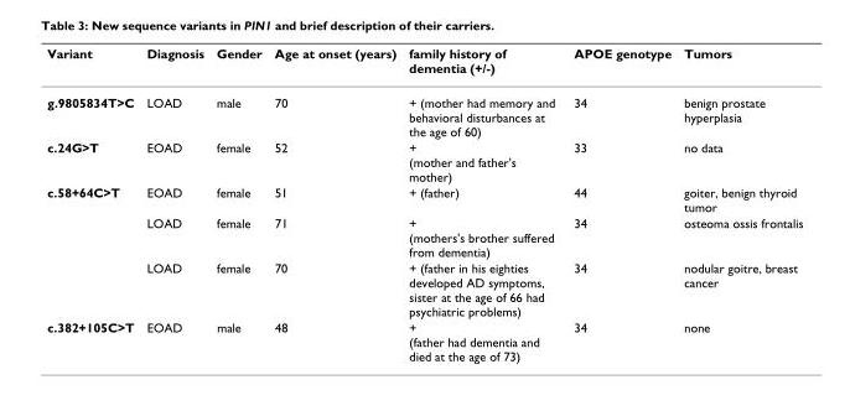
<table><thead><tr><td>Variant</td><td>Diagnosis</td><td>Gender</td><td>Age at onset (years)</td><td>family history of dementia (+/-)</td><td>APOE genotype</td><td>Tumors</td></tr></thead><tbody><tr><td>g.9805834T&gt;C</td><td>LOAD</td><td>male</td><td>70</td><td>+ (mother had memory and behavioral disturbances at the age of 60)</td><td>34</td><td>benign prostate hyperplasia</td></tr><tr><td>c.24G&gt;T</td><td>EOAD</td><td>female</td><td>52</td><td>+ (mother and father&#x27;s mother)</td><td>33</td><td>no data</td></tr><tr><td rowspan="3">c.58+64C&gt;T</td><td>EOAD</td><td>female</td><td>51</td><td>+ (father)</td><td>44</td><td>goiter, benign thyroid tumor</td></tr><tr><td>LOAD</td><td>female</td><td>71</td><td>+ (mothers&#x27;s brother suffered from dementia)</td><td>34</td><td>osteoma ossis frontalis</td></tr><tr><td>LOAD</td><td>female</td><td>70</td><td>+ (father in his eighties developed AD symptoms, sister at the age of 66 had psychiatric problems)</td><td>34</td><td>nodular goitre, breast cancer</td></tr><tr><td>c.382+105C&gt;T</td><td>EOAD</td><td>male</td><td>48</td><td>+ (father had dementia and died at the age of 73)</td><td>34</td><td>none</td></tr></tbody></table>